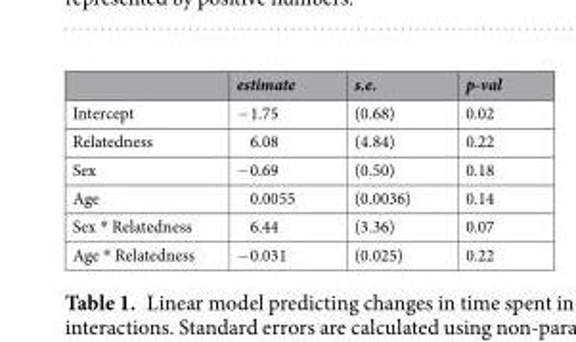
<table><thead><tr><td></td><td>estimate</td><td>s.e.</td><td>p-val</td></tr></thead><tbody><tr><td>Intercept</td><td>−1.75</td><td>(0.68)</td><td>0.02</td></tr><tr><td>Relatedness</td><td>6.08</td><td>(4.84)</td><td>0.22</td></tr><tr><td>Sex</td><td>−0.69</td><td>(0.50)</td><td>0.18</td></tr><tr><td>Age</td><td>0.0055</td><td>(0.0036)</td><td>0.14</td></tr><tr><td>Sex * Relatedness</td><td>6.44</td><td>(3.36)</td><td>0.07</td></tr><tr><td>Age * Relatedness</td><td>−0.031</td><td>(0.025)</td><td>0.22</td></tr></tbody></table>